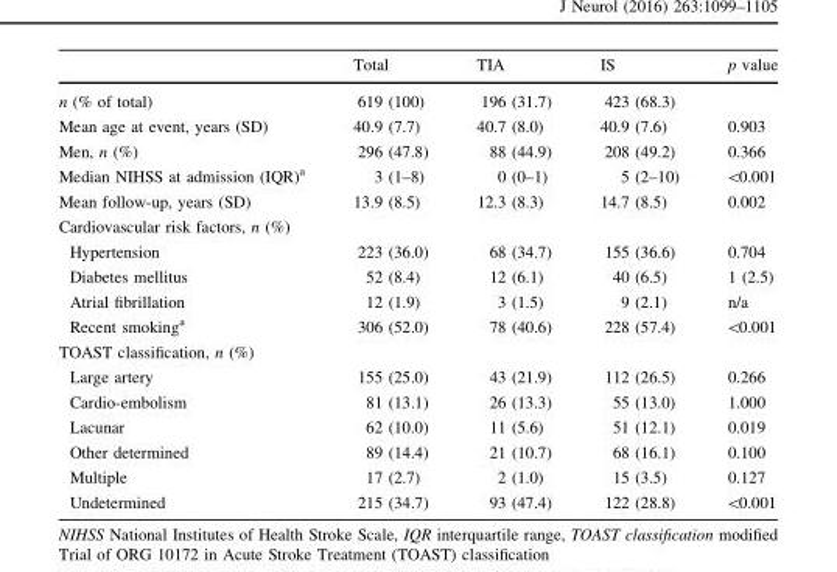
<table><thead><tr><td></td><td>Total</td><td>TIA</td><td>IS</td><td>p value</td></tr></thead><tbody><tr><td>n (% of total)</td><td>619 (100)</td><td>196 (31.7)</td><td>423 (68.3)</td><td></td></tr><tr><td>Mean age at event, years (SD)</td><td>40.9 (7.7)</td><td>40.7 (8.0)</td><td>40.9 (7.6)</td><td>0.903</td></tr><tr><td>Men, n (%)</td><td>296 (47.8)</td><td>88 (44.9)</td><td>208 (49.2)</td><td>0.366</td></tr><tr><td>Median NIHSS at admission (IQR)<sup>a</sup></td><td>3 (1–8)</td><td>0 (0–1)</td><td>5 (2–10)</td><td>&lt;0.001</td></tr><tr><td>Mean follow-up, years (SD)</td><td>13.9 (8.5)</td><td>12.3 (8.3)</td><td>14.7 (8.5)</td><td>0.002</td></tr><tr><td colspan="5">Cardiovascular risk factors, n (%)</td></tr><tr><td>Hypertension</td><td>223 (36.0)</td><td>68 (34.7)</td><td>155 (36.6)</td><td>0.704</td></tr><tr><td>Diabetes mellitus</td><td>52 (8.4)</td><td>12 (6.1)</td><td>40 (6.5)</td><td>1 (2.5)</td></tr><tr><td>Atrial fibrillation</td><td>12 (1.9)</td><td>3 (1.5)</td><td>9 (2.1)</td><td>n/a</td></tr><tr><td>Recent smoking<sup>a</sup></td><td>306 (52.0)</td><td>78 (40.6)</td><td>228 (57.4)</td><td>&lt;0.001</td></tr><tr><td colspan="5">TOAST classification, n (%)</td></tr><tr><td>Large artery</td><td>155 (25.0)</td><td>43 (21.9)</td><td>112 (26.5)</td><td>0.266</td></tr><tr><td>Cardio-embolism</td><td>81 (13.1)</td><td>26 (13.3)</td><td>55 (13.0)</td><td>1.000</td></tr><tr><td>Lacunar</td><td>62 (10.0)</td><td>11 (5.6)</td><td>51 (12.1)</td><td>0.019</td></tr><tr><td>Other determined</td><td>89 (14.4)</td><td>21 (10.7)</td><td>68 (16.1)</td><td>0.100</td></tr><tr><td>Multiple</td><td>17 (2.7)</td><td>2 (1.0)</td><td>15 (3.5)</td><td>0.127</td></tr><tr><td>Undetermined</td><td>215 (34.7)</td><td>93 (47.4)</td><td>122 (28.8)</td><td>&lt;0.001</td></tr></tbody></table>